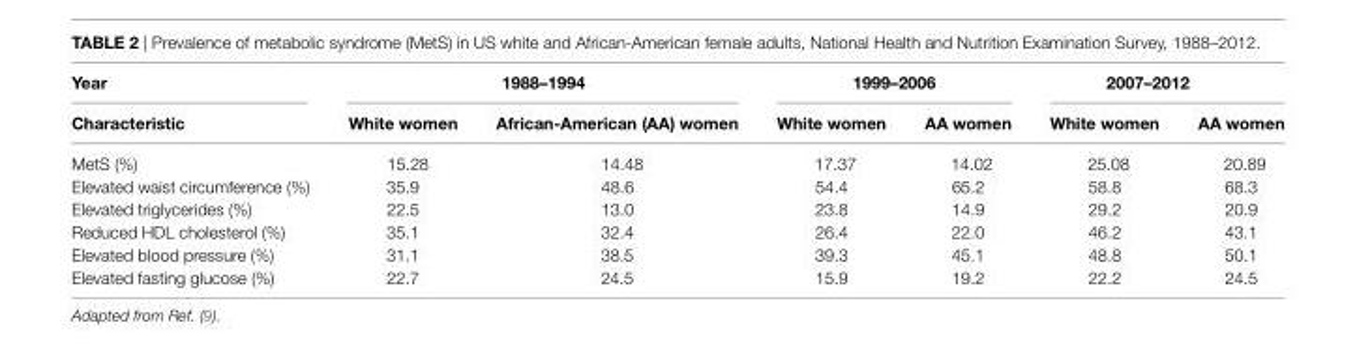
<table><thead><tr><td rowspan="2">Year Characteristic</td><td colspan="2">1988–1994</td><td colspan="2">1999–2006</td><td colspan="2">2007–2012</td></tr><tr><td>white women</td><td>African-American (AA) women</td><td>white women</td><td>AA women</td><td>white women</td><td>AA women</td></tr></thead><tbody><tr><td>MetS (%)</td><td>15.28</td><td>14.48</td><td>17.37</td><td>14.02</td><td>25.08</td><td>20.89</td></tr><tr><td>Elevated waist circumference (%)</td><td>35.9</td><td>48.6</td><td>54.4</td><td>65.2</td><td>58.8</td><td>68.3</td></tr><tr><td>Elevated triglycerides (%)</td><td>22.5</td><td>13.0</td><td>23.8</td><td>14.9</td><td>29.2</td><td>20.9</td></tr><tr><td>Reduced HDL cholesterol (%)</td><td>35.1</td><td>32.4</td><td>26.4</td><td>22.0</td><td>46.2</td><td>43.1</td></tr><tr><td>Elevated blood pressure (%)</td><td>31.1</td><td>38.5</td><td>39.3</td><td>45.1</td><td>48.8</td><td>50.1</td></tr><tr><td>Elevated fasting glucose (%)</td><td>22.7</td><td>24.5</td><td>15.9</td><td>19.2</td><td>22.2</td><td>24.5</td></tr></tbody></table>